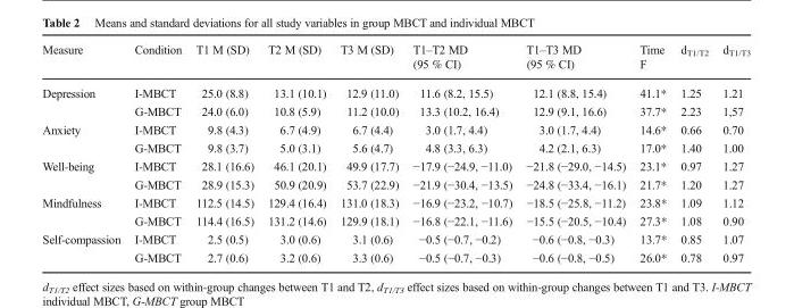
<table><thead><tr><td>Measure</td><td>Condition</td><td>T1 M (SD)</td><td>T2 M (SD)</td><td>T3 M (SD)</td><td>T1–T2 MD (95 % CI)</td><td>T1–T3 MD (95 % CI)</td><td>Time F</td><td>d<sub>T1/T2</sub></td><td>d<sub>T1/T3</sub></td></tr></thead><tbody><tr><td rowspan="2">Depression</td><td>I-MBCT</td><td>25.0 (8.8)</td><td>13.1 (10.1)</td><td>12.9 (11.0)</td><td>11.6 (8.2, 15.5)</td><td>12.1 (8.8, 15.4)</td><td>41.1*</td><td>1.25</td><td>1.21</td></tr><tr><td>G-MBCT</td><td>24.0 (6.0)</td><td>10.8 (5.9)</td><td>11.2 (10.0)</td><td>13.3 (10.2, 16.4)</td><td>12.9 (9.1, 16.6)</td><td>37.7*</td><td>2.23</td><td>1,57</td></tr><tr><td rowspan="2">Anxiety</td><td>I-MBCT</td><td>9.8 (4.3)</td><td>6.7 (4.9)</td><td>6.7 (4.4)</td><td>3.0 (1.7, 4.4)</td><td>3.0 (1.7, 4.4)</td><td>14.6*</td><td>0.66</td><td>0.70</td></tr><tr><td>G-MBCT</td><td>9.8 (3.7)</td><td>5.0 (3.1)</td><td>5.6 (4.7)</td><td>4.8 (3.3, 6.3)</td><td>4.2 (2.1, 6.3)</td><td>17.0*</td><td>1.40</td><td>1.00</td></tr><tr><td rowspan="2">Well-being</td><td>I-MBCT</td><td>28.1 (16.6)</td><td>46.1 (20.1)</td><td>49.9 (17.7)</td><td>−17.9 (−24.9, −11.0)</td><td>−21.8 (−29.0, −14.5)</td><td>23.1*</td><td>0.97</td><td>1.27</td></tr><tr><td>G-MBCT</td><td>28.9 (15.3)</td><td>50.9 (20.9)</td><td>53.7 (22.9)</td><td>−21.9 (−30.4, −13.5)</td><td>−24.8 (−33.4, −16.1)</td><td>21.7*</td><td>1.20</td><td>1.27</td></tr><tr><td rowspan="2">Mindfulness</td><td>I-MBCT</td><td>112.5 (14.5)</td><td>129.4 (16.4)</td><td>131.0 (18.3)</td><td>−16.9 (−23.2, −10.7)</td><td>−18.5 (−25.8, −11.2)</td><td>23.8*</td><td>1.09</td><td>1.12</td></tr><tr><td>G-MBCT</td><td>114.4 (16.5)</td><td>131.2 (14.6)</td><td>129.9 (18.1)</td><td>−16.8 (−22.1, −11.6)</td><td>−15.5 (−20.5, −10.4)</td><td>27.3*</td><td>1.08</td><td>0.90</td></tr><tr><td rowspan="2">Self-compassion</td><td>I-MBCT</td><td>2.5 (0.5)</td><td>3.0 (0.6)</td><td>3.1 (0.6)</td><td>−0.5 (−0.7, −0.2)</td><td>−0.6 (−0.8, −0.3)</td><td>13.7*</td><td>0.85</td><td>1.07</td></tr><tr><td>G-MBCT</td><td>2.7 (0.6)</td><td>3.2 (0.6)</td><td>3.3 (0.6)</td><td>−0.5 (−0.7, −0.3)</td><td>−0.6 (−0.8, −0.5)</td><td>26.0*</td><td>0.78</td><td>0.97</td></tr></tbody></table>